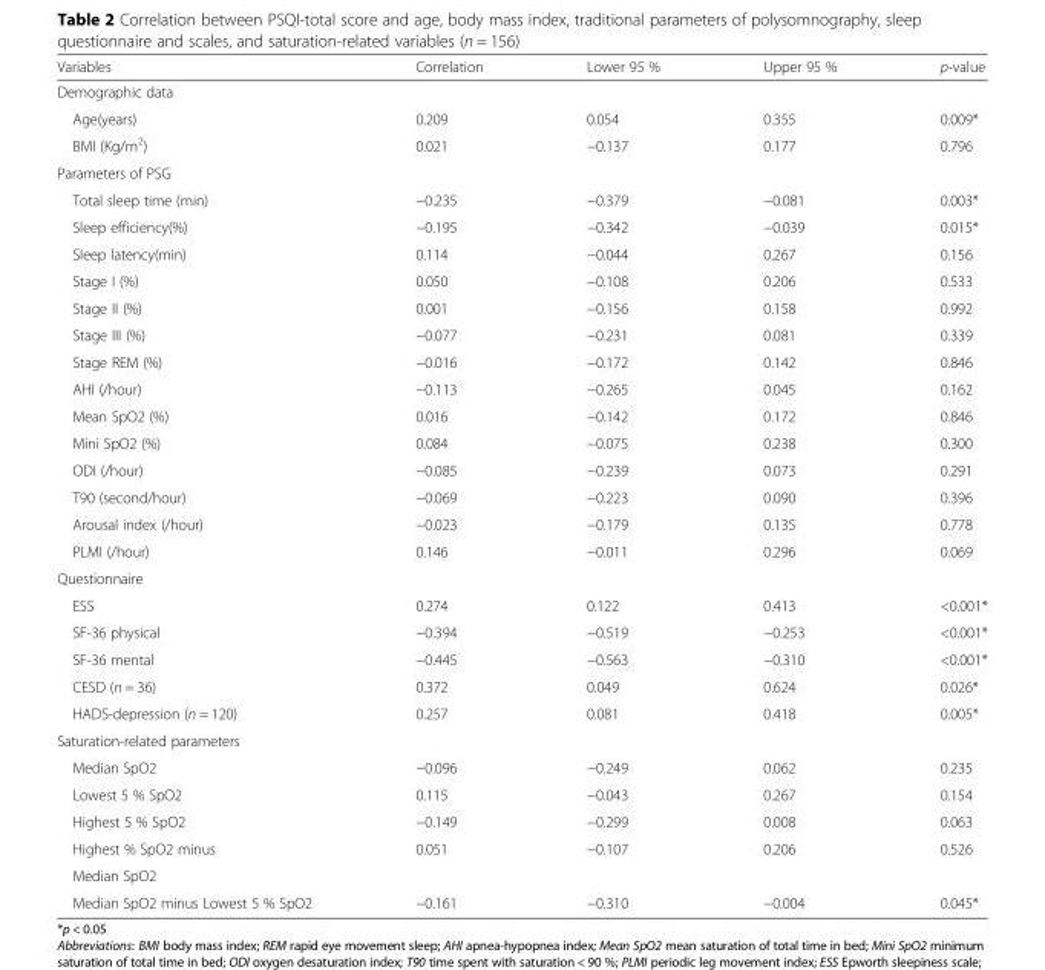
<table><thead><tr><td>Variables</td><td>Correlation</td><td>Lower 95 %</td><td>Upper 95 %</td><td>p-value</td></tr></thead><tbody><tr><td colspan="5">Demographic data</td></tr><tr><td>Age(years)</td><td>0.209</td><td>0.054</td><td>0.355</td><td>0.009*</td></tr><tr><td>BMI (Kg/m<sup>2</sup>)</td><td>0.021</td><td>−0.137</td><td>0.177</td><td>0.796</td></tr><tr><td colspan="5">Parameters of PSG</td></tr><tr><td>Total sleep time (min)</td><td>−0.235</td><td>−0.379</td><td>−0.081</td><td>0.003*</td></tr><tr><td>Sleep efficiency(%)</td><td>−0.195</td><td>−0.342</td><td>−0.039</td><td>0.015*</td></tr><tr><td>Sleep latency(min)</td><td>0.114</td><td>−0.044</td><td>0.267</td><td>0.156</td></tr><tr><td>Stage I (%)</td><td>0.050</td><td>−0.108</td><td>0.206</td><td>0.533</td></tr><tr><td>Stage II (%)</td><td>0.001</td><td>−0.156</td><td>0.158</td><td>0.992</td></tr><tr><td>Stage III (%)</td><td>−0.077</td><td>−0.231</td><td>0.081</td><td>0.339</td></tr><tr><td>Stage REM (%)</td><td>−0.016</td><td>−0.172</td><td>0.142</td><td>0.846</td></tr><tr><td>AHI (/hour)</td><td>−0.113</td><td>−0.265</td><td>0.045</td><td>0.162</td></tr><tr><td>Mean SpO2 (%)</td><td>0.016</td><td>−0.142</td><td>0.172</td><td>0.846</td></tr><tr><td>Mini SpO2 (%)</td><td>0.084</td><td>−0.075</td><td>0.238</td><td>0.300</td></tr><tr><td>ODI (/hour)</td><td>−0.085</td><td>−0.239</td><td>0.073</td><td>0.291</td></tr><tr><td>T90 (second/hour)</td><td>−0.069</td><td>−0.223</td><td>0.090</td><td>0.396</td></tr><tr><td>Arousal index (/hour)</td><td>−0.023</td><td>−0.179</td><td>0.135</td><td>0.778</td></tr><tr><td>PLMI (/hour)</td><td>0.146</td><td>−0.011</td><td>0.296</td><td>0.069</td></tr><tr><td colspan="5">Questionnaire</td></tr><tr><td>ESS</td><td>0.274</td><td>0.122</td><td>0.413</td><td>&lt;0.001*</td></tr><tr><td>SF-36 physical</td><td>−0.394</td><td>−0.519</td><td>−0.253</td><td>&lt;0.001*</td></tr><tr><td>SF-36 mental</td><td>−0.445</td><td>−0.563</td><td>−0.310</td><td>&lt;0.001*</td></tr><tr><td>CESD (n = 36)</td><td>0.372</td><td>0.049</td><td>0.624</td><td>0.026*</td></tr><tr><td>HADS-depression (n = 120)</td><td>0.257</td><td>0.081</td><td>0.418</td><td>0.005*</td></tr><tr><td colspan="5">Saturation-related parameters</td></tr><tr><td>Median SpO2</td><td>−0.096</td><td>−0.249</td><td>0.062</td><td>0.235</td></tr><tr><td>Lowest 5 % SpO2</td><td>0.115</td><td>−0.043</td><td>0.267</td><td>0.154</td></tr><tr><td>Highest 5 % SpO2</td><td>−0.149</td><td>−0.299</td><td>0.008</td><td>0.063</td></tr><tr><td>Highest % SpO2 minus</td><td rowspan="2">0.051</td><td rowspan="2">−0.107</td><td rowspan="2">0.206</td><td rowspan="2">0.526</td></tr><tr><td>Median SpO2</td></tr><tr><td>Median SpO2 minus Lowest 5 % SpO2</td><td>−0.161</td><td>−0.310</td><td>−0.004</td><td>0.045*</td></tr></tbody></table>